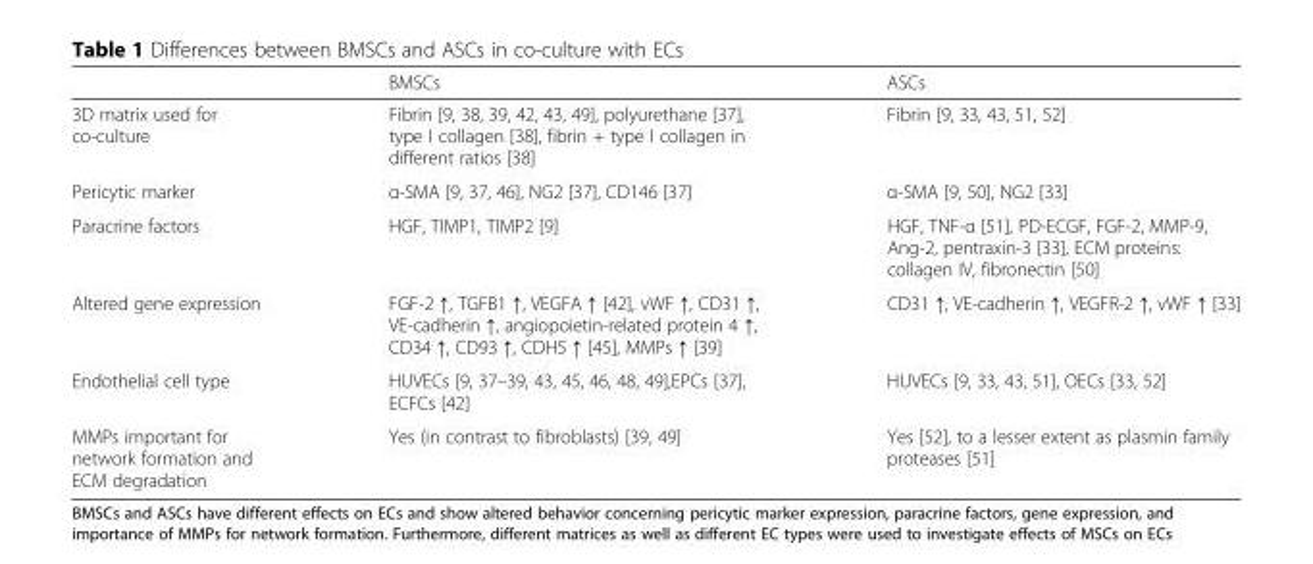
<table><thead><tr><td></td><td>BMSCs</td><td>ASCs</td></tr></thead><tbody><tr><td>3D matrix used for co-culture</td><td>Fibrin [9, 38, 39, 42, 43, 49], polyurethane [37], type I collagen [38], fibrin + type I collagen in different ratios [38]</td><td>Fibrin [9, 33, 43, 51, 52]</td></tr><tr><td>Pericytic marker</td><td>α-SMA [9, 37, 46], NG2 [37], CD146 [37]</td><td>α-SMA [9, 50], NG2 [33]</td></tr><tr><td>Paracrine factors</td><td>HGF, TIMP1, TIMP2 [9]</td><td>HGF, TNF-α [51], PD-ECGF, FGF-2, MMP-9, Ang-2, pentraxin-3 [33], ECM proteins: collagen IV, fibronectin [50]</td></tr><tr><td>Altered gene expression</td><td>FGF-2 ↑, TGFB1 ↑, VEGFA ↑ [42], vWF ↑, CD31 ↑, VE-cadherin ↑, angiopoietin-related protein 4 ↑, CD34 ↑, CD93 ↑, CDH5 ↑ [45], MMPs ↑ [39]</td><td>CD31 ↑, VE-cadherin ↑, VEGFR-2 ↑, vWF ↑ [33]</td></tr><tr><td>Endothelial cell type</td><td>HUVECs [9, 37–39, 43, 45, 46, 48, 49],EPCs [37], ECFCs [42]</td><td>HUVECs [9, 33, 43, 51], OECs [33, 52]</td></tr><tr><td>MMPs important for network formation and ECM degradation</td><td>Yes (in contrast to fibroblasts) [39, 49]</td><td>Yes [52], to a lesser extent as plasmin family proteases [51]</td></tr></tbody></table>